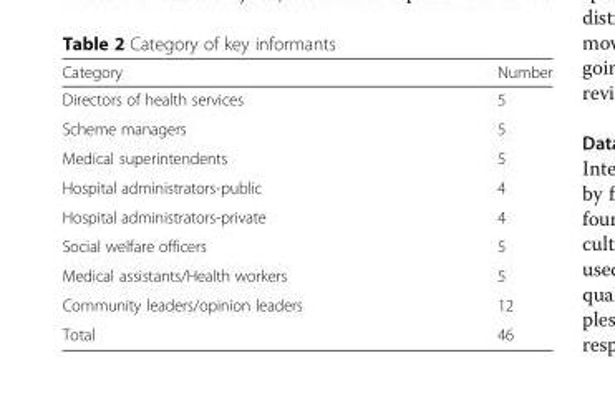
<table><thead><tr><td>Category</td><td>Number</td></tr></thead><tbody><tr><td>Directors of health services</td><td>5</td></tr><tr><td>Scheme managers</td><td>5</td></tr><tr><td>Medical superintendents</td><td>5</td></tr><tr><td>Hospital administrators-public</td><td>4</td></tr><tr><td>Hospital administrators-private</td><td>4</td></tr><tr><td>Social welfare officers</td><td>5</td></tr><tr><td>Medical assistants/Health workers</td><td>5</td></tr><tr><td>Community leaders/opinion leaders</td><td>12</td></tr><tr><td>Total</td><td>46</td></tr></tbody></table>